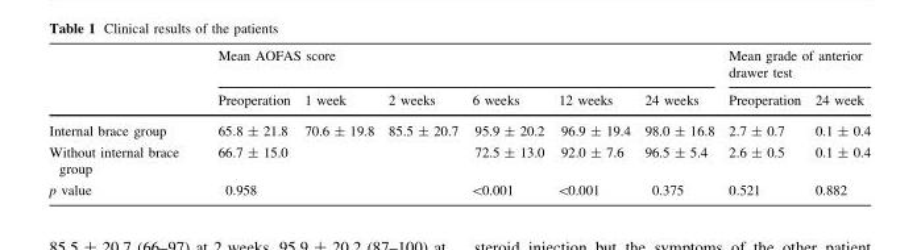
<table><thead><tr><td rowspan="2"></td><td colspan="6">Mean AOFAS score</td><td colspan="2">Mean grade of anterior drawer test</td></tr><tr><td>Preoperation</td><td>1 week</td><td>2 weeks</td><td>6 weeks</td><td>12 weeks</td><td>24 weeks</td><td>Preoperation</td><td>24 week</td></tr></thead><tbody><tr><td>Internal brace group</td><td>65.8 ± 21.8</td><td>70.6 ± 19.8</td><td>85.5 ± 20.7</td><td>95.9 ± 20.2</td><td>96.9 ± 19.4</td><td>98.0 ± 16.8</td><td>2.7 ± 0.7</td><td>0.1 ± 0.4</td></tr><tr><td>Without internal brace group</td><td>66.7 ± 15.0</td><td></td><td></td><td>72.5 ± 13.0</td><td>92.0 ± 7.6</td><td>96.5 ± 5.4</td><td>2.6 ± 0.5</td><td>0.1 ± 0.4</td></tr><tr><td>p value</td><td>0.958</td><td></td><td></td><td>&lt;0.001</td><td>&lt;0.001</td><td>0.375</td><td>0.521</td><td>0.882</td></tr></tbody></table>